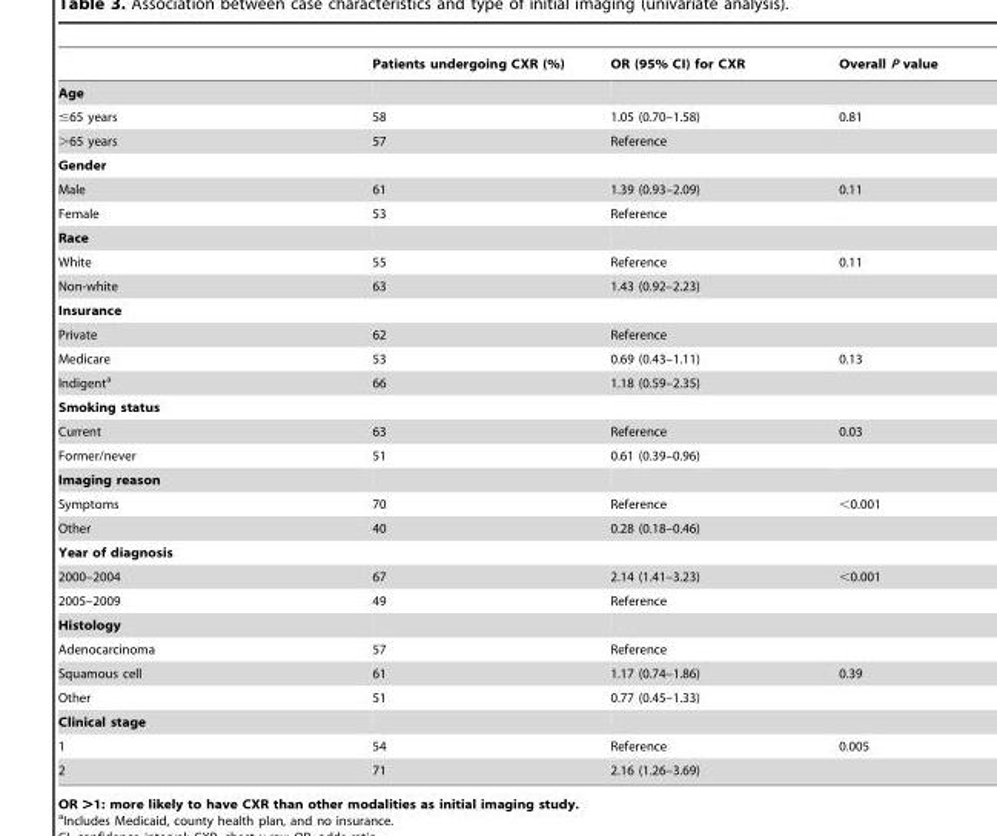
<table><thead><tr><td></td><td>Patients undergoing CXR (%)</td><td>OR (95% CI) for CXR</td><td>Overall P value</td></tr></thead><tbody><tr><td colspan="4">Age</td></tr><tr><td>≤65 years</td><td>58</td><td>1.05 (0.70–1.58)</td><td>0.81</td></tr><tr><td>&gt;65 years</td><td>57</td><td>Reference</td><td></td></tr><tr><td colspan="4">Gender</td></tr><tr><td>Male</td><td>61</td><td>1.39 (0.93–2.09)</td><td>0.11</td></tr><tr><td>Female</td><td>53</td><td>Reference</td><td></td></tr><tr><td colspan="4">Race</td></tr><tr><td>White</td><td>55</td><td>Reference</td><td>0.11</td></tr><tr><td>Non-white</td><td>63</td><td>1.43 (0.92–2.23)</td><td></td></tr><tr><td colspan="4">Insurance</td></tr><tr><td>Private</td><td>62</td><td>Reference</td><td></td></tr><tr><td>Medicare</td><td>53</td><td>0.69 (0.43–1.11)</td><td>0.13</td></tr><tr><td>Indigent<sup>a</sup></td><td>66</td><td>1.18 (0.59–2.35)</td><td></td></tr><tr><td colspan="4">Smoking status</td></tr><tr><td>Current</td><td>63</td><td>Reference</td><td>0.03</td></tr><tr><td>Former/never</td><td>51</td><td>0.61 (0.39–0.96)</td><td></td></tr><tr><td colspan="4">Imaging reason</td></tr><tr><td>Symptoms</td><td>70</td><td>Reference</td><td>&lt;0.001</td></tr><tr><td>Other</td><td>40</td><td>0.28 (0.18–0.46)</td><td></td></tr><tr><td colspan="4">Year of diagnosis</td></tr><tr><td>2000–2004</td><td>67</td><td>2.14 (1.41–3.23)</td><td>&lt;0.001</td></tr><tr><td>2005–2009</td><td>49</td><td>Reference</td><td></td></tr><tr><td colspan="4">Histology</td></tr><tr><td>Adenocarcinoma</td><td>57</td><td>Reference</td><td></td></tr><tr><td>Squamous cell</td><td>61</td><td>1.17 (0.74–1.86)</td><td>0.39</td></tr><tr><td>Other</td><td>51</td><td>0.77 (0.45–1.33)</td><td></td></tr><tr><td colspan="4">Clinical stage</td></tr><tr><td>1</td><td>54</td><td>Reference</td><td>0.005</td></tr><tr><td>2</td><td>71</td><td>2.16 (1.26–3.69)</td><td></td></tr></tbody></table>